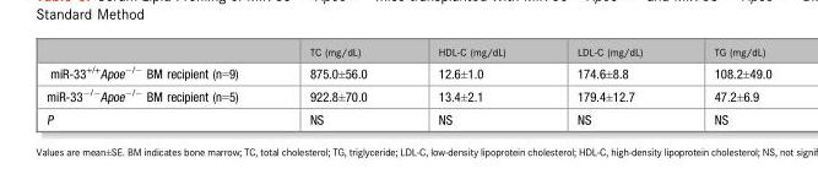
<table><thead><tr><td></td><td>TC (mg/dL)</td><td>HDL-C (mg/dL)</td><td>LDL-C (mg/dL)</td><td>TG (mg/dL)</td></tr></thead><tbody><tr><td>miR-33<sup>+/+</sup>Apoe<sup>−/−</sup> BM recipient (n=9)</td><td>875.0±56.0</td><td>12.6±1.0</td><td>174.6±8.8</td><td>108.2±49.0</td></tr><tr><td>miR-33<sup>−/−</sup>Apoe<sup>−/−</sup> BM recipient (n=5)</td><td>922.8±70.0</td><td>13.4±2.1</td><td>179.4±12.7</td><td>47.2±6.9</td></tr><tr><td>P</td><td>NS</td><td>NS</td><td>NS</td><td>NS</td></tr></tbody></table>